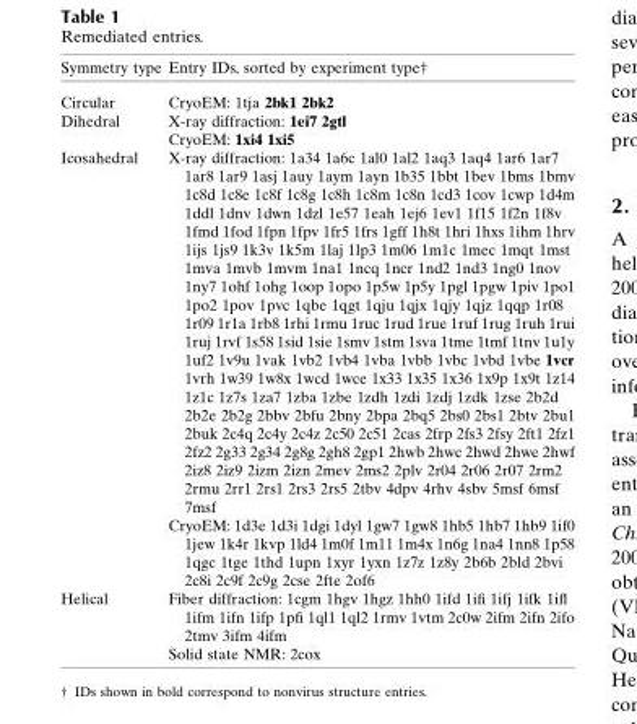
<table><thead><tr><td>Symmetry type</td><td>Entry IDs, sorted by experiment type†</td></tr></thead><tbody><tr><td>Circular</td><td>CryoEM: 1tja 2bk1 2bk2</td></tr><tr><td rowspan="2">Dihedral</td><td>X-ray diffraction: 1ei7 2gtl</td></tr><tr><td>CryoEM: 1xi4 1xi5</td></tr><tr><td rowspan="2">Icosahedral</td><td>X-ray diffraction: 1a34 1a6c 1al0 1al2 1aq3 1aq4 1ar6 1ar7 1ar8 1ar9 1asj 1auy 1aym 1ayn 1b35 1bbt 1bev 1bms 1bmv 1c8d 1c8e 1c8f 1c8g 1c8h 1c8m 1c8n 1cd3 1cov 1cwp 1d4m 1ddl 1dnv 1dwn 1dzl 1e57 1eah 1ej6 1ev1 1f15 1f2n 1f8v 1fmd 1fod 1fpn 1fpv 1fr5 1frs 1gff 1h8t 1hri 1hxs 1ihm 1hrv 1ijs 1js9 1k3v 1k5m 1laj 1lp3 1m06 1m1c 1mec 1mqt 1mst 1mva 1mvb 1mvm 1na1 1ncq 1ncr 1nd2 1nd3 1ng0 1nov 1ny7 1ohf 1ohg 1oop 1opo 1p5w 1p5y 1pgl 1pgw 1piv 1po1 1po2 1pov 1pvc 1qbe 1qgt 1qju 1qjx 1qjy 1qjz 1qqp 1r08 1r09 1r1a 1rb8 1rhi 1rmu 1ruc 1rud 1rue 1ruf 1rug 1ruh 1rui 1ruj 1rvf 1s58 1sid 1sie 1smv 1stm 1sva 1tme 1tmf 1tnv 1u1y 1uf2 1v9u 1vak 1vb2 1vb4 1vba 1vbb 1vbc 1vbd 1vbe 1vcr 1vrh 1w39 1w8x 1wcd 1wce 1x33 1x35 1x36 1x9p 1x9t 1z14 1z1c 1z7s 1za7 1zba 1zbe 1zdh 1zdi 1zdj 1zdk 1zse 2b2d 2b2e 2b2g 2bbv 2bfu 2bny 2bpa 2bq5 2bs0 2bs1 2btv 2bu1 2buk 2c4q 2c4y 2c4z 2c50 2c51 2cas 2frp 2fs3 2fsy 2ft1 2fz1 2fz2 2g33 2g34 2g8g 2gh8 2gp1 2hwb 2hwc 2hwd 2hwe 2hwf 2iz8 2iz9 2izm 2izn 2mev 2ms2 2plv 2r04 2r06 2r07 2rm2 2rmu 2rr1 2rs1 2rs3 2rs5 2tbv 4dpv 4rhv 4sbv 5msf 6msf 7msf</td></tr><tr><td>CryoEM: 1d3e 1d3i 1dgi 1dyl 1gw7 1gw8 1hb5 1hb7 1hb9 1if0 1jew 1k4r 1kvp 1ld4 1m0f 1m11 1m4x 1n6g 1na4 1nn8 1p58 1qgc 1tge 1thd 1upn 1xyr 1yxn 1z7z 1z8y 2b6b 2bld 2bvi 2c8i 2c9f 2c9g 2cse 2fte 2of6</td></tr><tr><td rowspan="2">Helical</td><td>Fiber diffraction: 1cgm 1hgv 1hgz 1hh0 1ifd 1ifi 1ifj 1ifk 1ifl 1ifm 1ifn 1ifp 1pfi 1ql1 1ql2 1rmv 1vtm 2c0w 2ifm 2ifn 2ifo 2tmv 3ifm 4ifm</td></tr><tr><td>Solid state NMR: 2cox</td></tr></tbody></table>